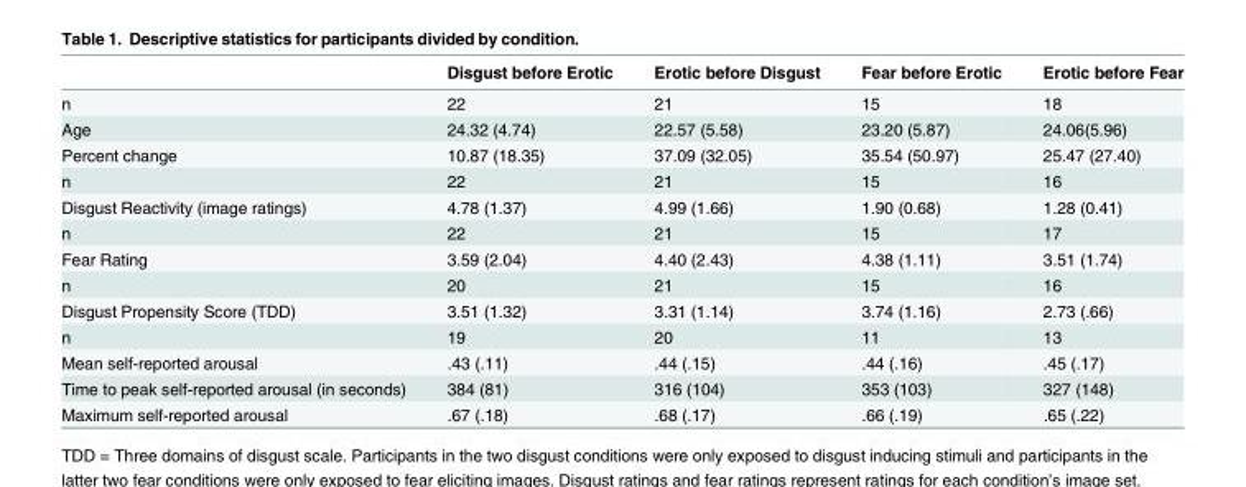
<table><thead><tr><td></td><td>Disgust before Erotic</td><td>Erotic before Disgust</td><td>Fear before Erotic</td><td>Erotic before Fear</td></tr></thead><tbody><tr><td>n</td><td>22</td><td>21</td><td>15</td><td>18</td></tr><tr><td>Age</td><td>24.32 (4.74)</td><td>22.57 (5.58)</td><td>23.20 (5.87)</td><td>24.06(5.96)</td></tr><tr><td>Percent change</td><td>10.87 (18.35)</td><td>37.09 (32.05)</td><td>35.54 (50.97)</td><td>25.47 (27.40)</td></tr><tr><td>n</td><td>22</td><td>21</td><td>15</td><td>16</td></tr><tr><td>Disgust Reactivity (image ratings)</td><td>4.78 (1.37)</td><td>4.99 (1.66)</td><td>1.90 (0.68)</td><td>1.28 (0.41)</td></tr><tr><td>n</td><td>22</td><td>21</td><td>15</td><td>17</td></tr><tr><td>Fear Rating</td><td>3.59 (2.04)</td><td>4.40 (2.43)</td><td>4.38 (1.11)</td><td>3.51 (1.74)</td></tr><tr><td>n</td><td>20</td><td>21</td><td>15</td><td>16</td></tr><tr><td>Disgust Propensity Score (TDD)</td><td>3.51 (1.32)</td><td>3.31 (1.14)</td><td>3.74 (1.16)</td><td>2.73 (.66)</td></tr><tr><td>n</td><td>19</td><td>20</td><td>11</td><td>13</td></tr><tr><td>Mean self-reported arousal</td><td>.43 (.11)</td><td>.44 (.15)</td><td>.44 (.16)</td><td>.45 (.17)</td></tr><tr><td>Time to peak self-reported arousal (in seconds)</td><td>384 (81)</td><td>316 (104)</td><td>353 (103)</td><td>327 (148)</td></tr><tr><td>Maximum self-reported arousal</td><td>.67 (.18)</td><td>.68 (.17)</td><td>.66 (.19)</td><td>.65 (.22)</td></tr></tbody></table>